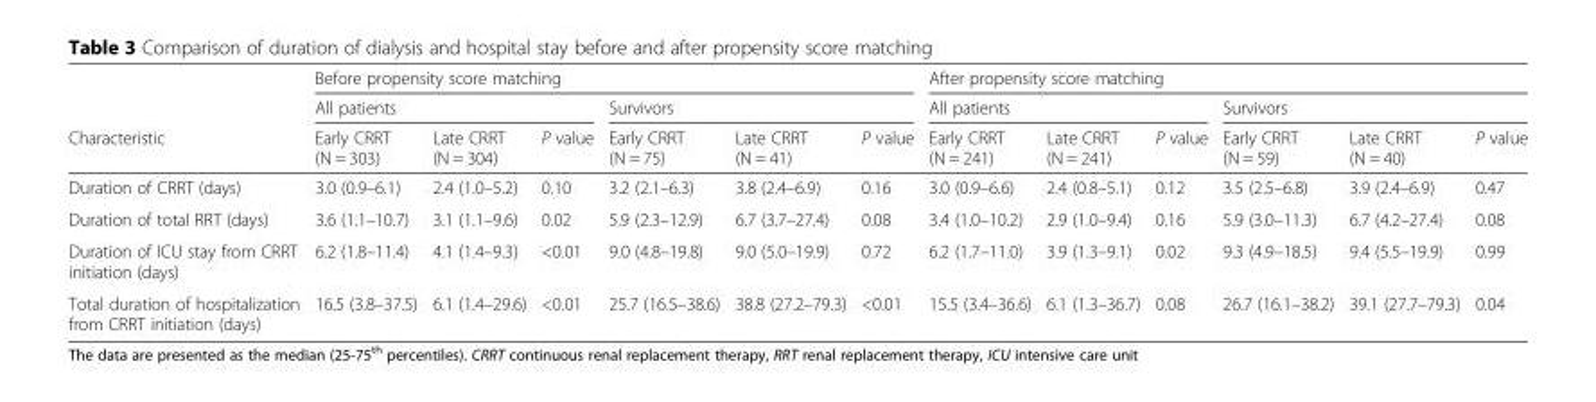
<table><thead><tr><td rowspan="3">Characteristic</td><td colspan="6">Before propensity score matching</td><td colspan="6">After propensity score matching</td></tr><tr><td colspan="3">All patients</td><td colspan="3">Survivors</td><td colspan="3">All patients</td><td colspan="3">Survivors</td></tr><tr><td>Early CRRT (N = 303)</td><td>Late CRRT (N = 304)</td><td>P value</td><td>Early CRRT (N = 75)</td><td>Late CRRT (N = 41)</td><td>P value</td><td>Early CRRT (N = 241)</td><td>Late CRRT (N = 241)</td><td>P value</td><td>Early CRRT (N = 59)</td><td>Late CRRT (N = 40)</td><td>P value</td></tr></thead><tbody><tr><td>Duration of CRRT (days)</td><td>3.0 (0.9–6.1)</td><td>2.4 (1.0–5.2)</td><td>0.10</td><td>3.2 (2.1–6.3)</td><td>3.8 (2.4–6.9)</td><td>0.16</td><td>3.0 (0.9–6.6)</td><td>2.4 (0.8–5.1)</td><td>0.12</td><td>3.5 (2.5–6.8)</td><td>3.9 (2.4–6.9)</td><td>0.47</td></tr><tr><td>Duration of total RRT (days)</td><td>3.6 (1.1–10.7)</td><td>3.1 (1.1–9.6)</td><td>0.02</td><td>5.9 (2.3–12.9)</td><td>6.7 (3.7–27.4)</td><td>0.08</td><td>3.4 (1.0–10.2)</td><td>2.9 (1.0–9.4)</td><td>0.16</td><td>5.9 (3.0–11.3)</td><td>6.7 (4.2–27.4)</td><td>0.08</td></tr><tr><td>Duration of ICU stay from CRRT initiation (days)</td><td>6.2 (1.8–11.4)</td><td>4.1 (1.4–9.3)</td><td>&lt;0.01</td><td>9.0 (4.8–19.8)</td><td>9.0 (5.0–19.9)</td><td>0.72</td><td>6.2 (1.7–11.0)</td><td>3.9 (1.3–9.1)</td><td>0.02</td><td>9.3 (4.9–18.5)</td><td>9.4 (5.5–19.9)</td><td>0.99</td></tr><tr><td>Total duration of hospitalization from CRRT initiation (days)</td><td>16.5 (3.8–37.5)</td><td>6.1 (1.4–29.6)</td><td>&lt;0.01</td><td>25.7 (16.5–38.6)</td><td>38.8 (27.2–79.3)</td><td>&lt;0.01</td><td>15.5 (3.4–36.6)</td><td>6.1 (1.3–36.7)</td><td>0.08</td><td>26.7 (16.1–38.2)</td><td>39.1 (27.7–79.3)</td><td>0.04</td></tr></tbody></table>